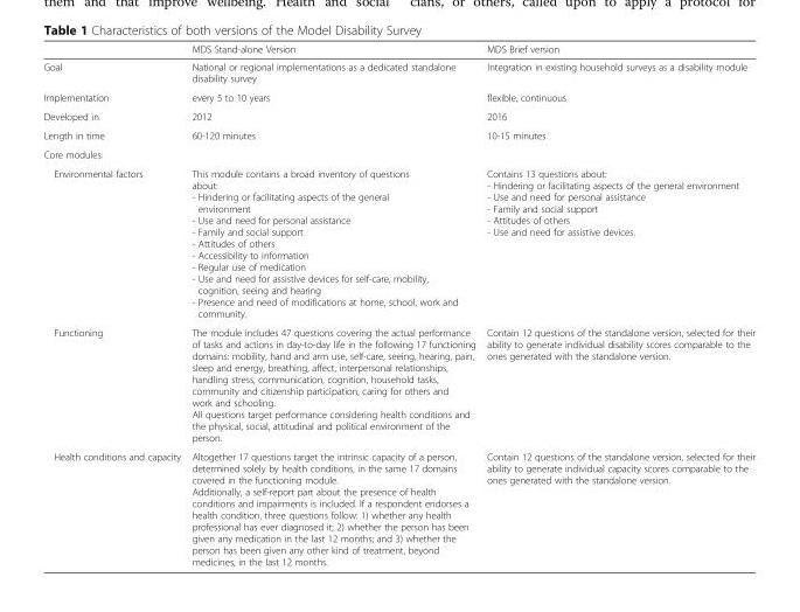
<table><thead><tr><td></td><td>MDS Stand-alone Version</td><td>MDS Brief version</td></tr></thead><tbody><tr><td>Goal</td><td>National or regional implementations as a dedicated standalone disability survey</td><td>Integration in existing household surveys as a disability module</td></tr><tr><td>Implementation</td><td>every 5 to 10 years</td><td>flexible, continuous</td></tr><tr><td>Developed in</td><td>2012</td><td>2016</td></tr><tr><td>Length in time</td><td>60-120 minutes</td><td>10-15 minutes</td></tr><tr><td colspan="3">Core modules:</td></tr><tr><td>Environmental factors</td><td>This module contains a broad inventory of questions about: - Hindering or facilitating aspects of the general environment - Use and need for personal assistance - Family and social support - Attitudes of others - Accessibility to information - Regular use of medication - Use and need for assistive devices for self-care, mobility, cognition, seeing and hearing - Presence and need of modifications at home, school, work and community.</td><td>Contains 13 questions about: - Hindering or facilitating aspects of the general environment - Use and need for personal assistance - Family and social support - Attitudes of others - Use and need for assistive devices.</td></tr><tr><td>Functioning</td><td>The module includes 47 questions covering the actual performance of tasks and actions in day-to-day life in the following 17 functioning domains: mobility, hand and arm use, self-care, seeing, hearing, pain, sleep and energy, breathing, affect, interpersonal relationships, handling stress, communication, cognition, household tasks, community and citizenship participation, caring for others and work and schooling. All questions target performance considering health conditions and the physical, social, attitudinal and political environment of the person.</td><td>Contain 12 questions of the standalone version, selected for their ability to generate individual disability scores comparable to the ones generated with the standalone version.</td></tr><tr><td>Health conditions and capacity</td><td>Altogether 17 questions target the intrinsic capacity of a person, determined solely by health conditions, in the same 17 domains covered in the functioning module. Additionally, a self-report part about the presence of health conditions and impairments is included. If a respondent endorses a health condition, three questions follow: 1) whether any health professional has ever diagnosed it; 2) whether the person has been given any medication in the last 12 months; and 3) whether the person has been given any other kind of treatment, beyond medicines, in the last 12 months.</td><td>Contain 12 questions of the standalone version, selected for their ability to generate individual capacity scores comparable to the ones generated with the standalone version.</td></tr></tbody></table>